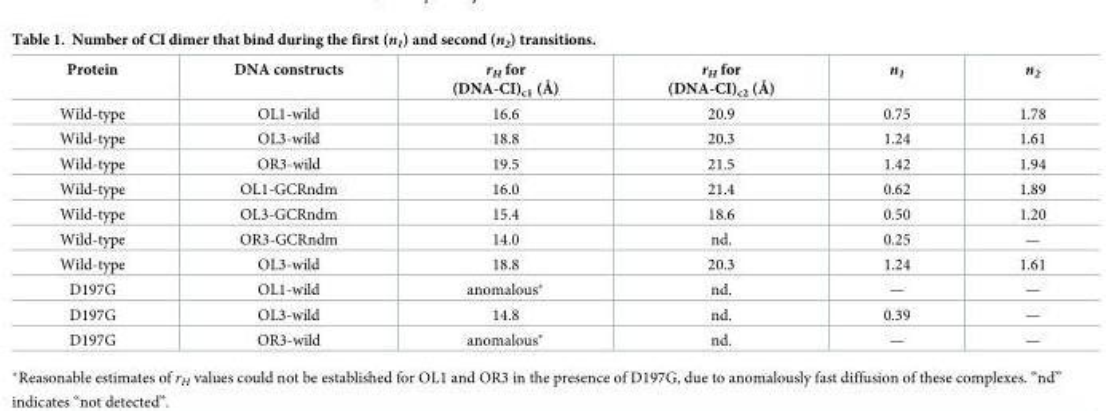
<table><thead><tr><td>Protein</td><td>DNA constructs</td><td>r<sub>H</sub> for (DNA-CI)<sub>c1</sub> (Å)</td><td>r<sub>H</sub> for (DNA-CI)<sub>c2</sub> (Å)</td><td>n<sub>1</sub></td><td>n<sub>2</sub></td></tr></thead><tbody><tr><td>Wild-type</td><td>OL1-wild</td><td>16.6</td><td>20.9</td><td>0.75</td><td>1.78</td></tr><tr><td>Wild-type</td><td>OL3-wild</td><td>18.8</td><td>20.3</td><td>1.24</td><td>1.61</td></tr><tr><td>Wild-type</td><td>OR3-wild</td><td>19.5</td><td>21.5</td><td>1.42</td><td>1.94</td></tr><tr><td>Wild-type</td><td>OL1-GCRndm</td><td>16.0</td><td>21.4</td><td>0.62</td><td>1.89</td></tr><tr><td>Wild-type</td><td>OL3-GCRndm</td><td>15.4</td><td>18.6</td><td>0.50</td><td>1.20</td></tr><tr><td>Wild-type</td><td>OR3-GCRndm</td><td>14.0</td><td>nd.</td><td>0.25</td><td>—</td></tr><tr><td>Wild-type</td><td>OL3-wild</td><td>18.8</td><td>20.3</td><td>1.24</td><td>1.61</td></tr><tr><td>D197G</td><td>OL1-wild</td><td>anomalous*</td><td>nd.</td><td>—</td><td>—</td></tr><tr><td>D197G</td><td>OL3-wild</td><td>14.8</td><td>nd.</td><td>0.39</td><td>—</td></tr><tr><td>D197G</td><td>OR3-wild</td><td>anomalous*</td><td>nd.</td><td>—</td><td>—</td></tr></tbody></table>